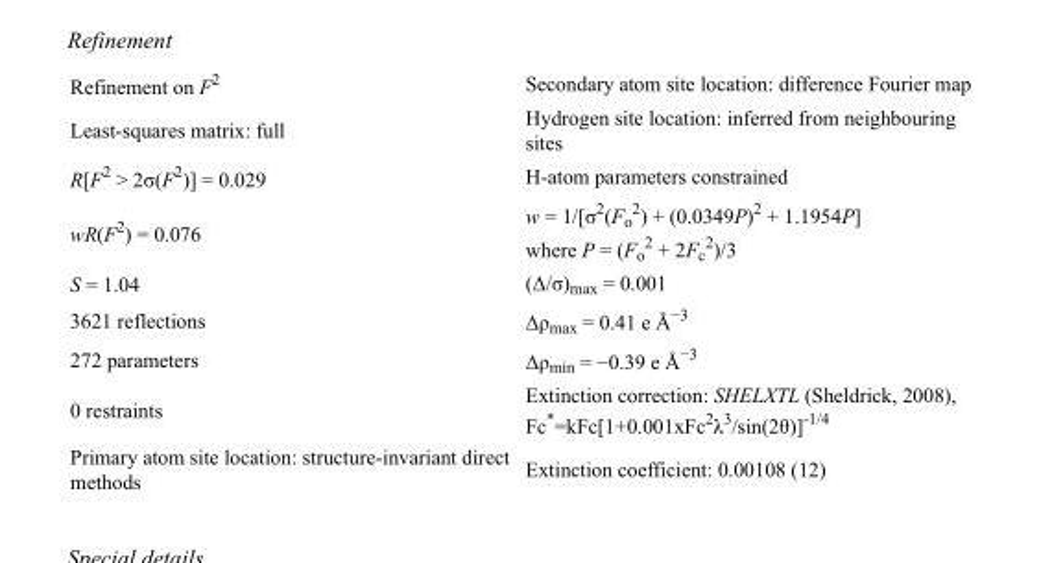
<table><tbody><tr><td>Refinement on F<sup>2</sup></td><td>Secondary atom site location: difference Fourier map</td></tr><tr><td>Least-squares matrix: full</td><td>Hydrogen site location: inferred from neighbouring sites</td></tr><tr><td>R[F<sup>2</sup> &gt; 2σ(F<sup>2</sup>)] = 0.029</td><td>H-atom parameters constrained</td></tr><tr><td>wR(F<sup>2</sup>) = 0.076</td><td>w = 1/[σ<sup>2</sup>(F<sub>o</sub> <sup>2</sup>) + (0.0349P)<sup>2</sup> + 1.1954P] where P = (F<sub>o</sub> <sup>2</sup> + 2F<sub>c</sub> <sup>2</sup>)/3</td></tr><tr><td>S = 1.04</td><td>(Δ/σ)<sub>max</sub> = 0.001</td></tr><tr><td>3621 reflections</td><td>Δρ<sub>max</sub> = 0.41 e Å<sup>−3</sup></td></tr><tr><td>272 parameters</td><td>Δρ<sub>min</sub> = −0.39 e Å<sup>−3</sup></td></tr><tr><td>0 restraints</td><td>Extinction correction: SHELXTL (Sheldrick, 2008), Fc*=kFc[1+0.001xFc<sup>2</sup>λ<sup>3</sup>/sin(2θ)]<sup>-1/4</sup></td></tr><tr><td>Primary atom site location: structure-invariant direct methods</td><td>Extinction coefficient: 0.00108 (12)</td></tr></tbody></table>